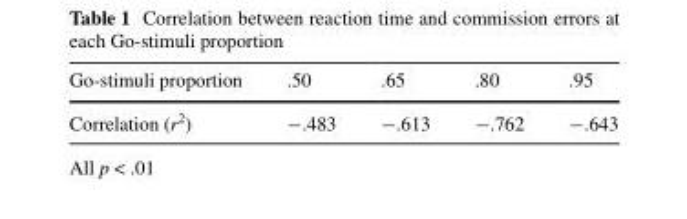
<table><thead><tr><td>Go-stimuli proportion</td><td>.50</td><td>.65</td><td>.80</td><td>.95</td></tr></thead><tbody><tr><td>Correlation (r<sup>2</sup>)</td><td>−.483</td><td>−.613</td><td>−.762</td><td>−.643</td></tr></tbody></table>